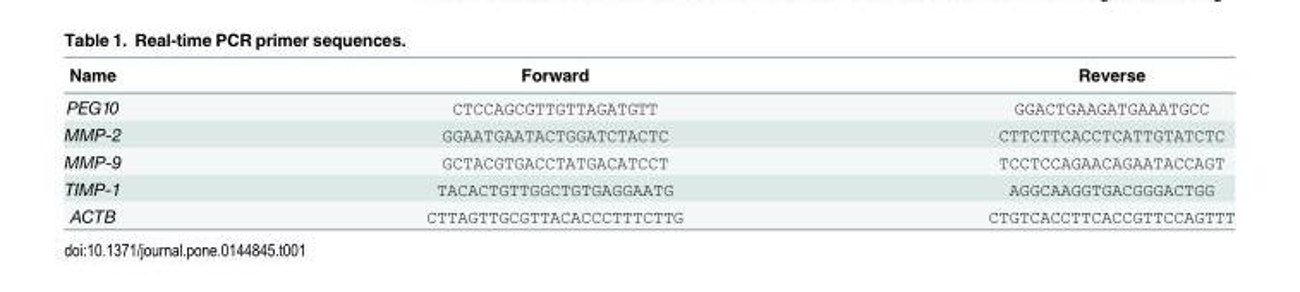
<table><thead><tr><td>Name</td><td>Forward</td><td>Reverse</td></tr></thead><tbody><tr><td>PEG10</td><td>CTCCAGCGTTGTTAGATGTT</td><td>GGACTGAAGATGAAATGCC</td></tr><tr><td>MMP-2</td><td>GGAATGAATACTGGATCTACTC</td><td>CTTCTTCACCTCATTGTATCTC</td></tr><tr><td>MMP-9</td><td>GCTACGTGACCTATGACATCCT</td><td>TCCTCCAGAACAGAATACCAGT</td></tr><tr><td>TIMP-1</td><td>TACACTGTTGGCTGTGAGGAATG</td><td>AGGCAAGGTGACGGGACTGG</td></tr><tr><td>ACTB</td><td>CTTAGTTGCGTTACACCCTTTCTTG</td><td>CTGTCACCTTCACCGTTCCAGTTT</td></tr></tbody></table>